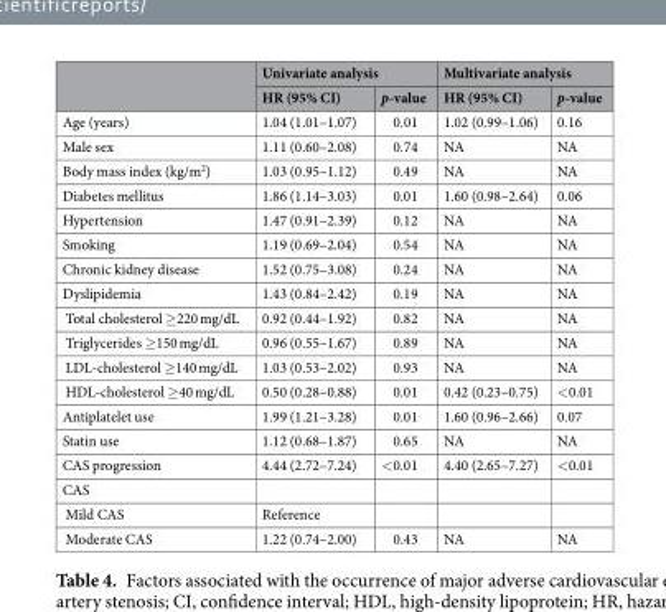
<table><thead><tr><td rowspan="2"></td><td colspan="2">Univariate analysis</td><td colspan="2">Multivariate analysis</td></tr><tr><td>HR (95% CI)</td><td>p-value</td><td>HR (95% CI)</td><td>p-value</td></tr></thead><tbody><tr><td>Age (years)</td><td>1.04 (1.01–1.07)</td><td>0.01</td><td>1.02 (0.99–1.06)</td><td>0.16</td></tr><tr><td>Male sex</td><td>1.11 (0.60–2.08)</td><td>0.74</td><td>NA</td><td>NA</td></tr><tr><td>Body mass index (kg/m<sup>2</sup>)</td><td>1.03 (0.95–1.12)</td><td>0.49</td><td>NA</td><td>NA</td></tr><tr><td>Diabetes mellitus</td><td>1.86 (1.14–3.03)</td><td>0.01</td><td>1.60 (0.98–2.64)</td><td>0.06</td></tr><tr><td>Hypertension</td><td>1.47 (0.91–2.39)</td><td>0.12</td><td>NA</td><td>NA</td></tr><tr><td>Smoking</td><td>1.19 (0.69–2.04)</td><td>0.54</td><td>NA</td><td>NA</td></tr><tr><td>Chronic kidney disease</td><td>1.52 (0.75–3.08)</td><td>0.24</td><td>NA</td><td>NA</td></tr><tr><td>Dyslipidemia</td><td>1.43 (0.84–2.42)</td><td>0.19</td><td>NA</td><td>NA</td></tr><tr><td>Total cholesterol ≥220 mg/dL</td><td>0.92 (0.44–1.92)</td><td>0.82</td><td>NA</td><td>NA</td></tr><tr><td>Triglycerides ≥150 mg/dL</td><td>0.96 (0.55–1.67)</td><td>0.89</td><td>NA</td><td>NA</td></tr><tr><td>LDL-cholesterol ≥140 mg/dL</td><td>1.03 (0.53–2.02)</td><td>0.93</td><td>NA</td><td>NA</td></tr><tr><td>HDL-cholesterol ≥40 mg/dL</td><td>0.50 (0.28–0.88)</td><td>0.01</td><td>0.42 (0.23–0.75)</td><td>&lt;0.01</td></tr><tr><td>Antiplatelet use</td><td>1.99 (1.21–3.28)</td><td>0.01</td><td>1.60 (0.96–2.66)</td><td>0.07</td></tr><tr><td>Statin use</td><td>1.12 (0.68–1.87)</td><td>0.65</td><td>NA</td><td>NA</td></tr><tr><td>CAS progression</td><td>4.44 (2.72–7.24)</td><td>&lt;0.01</td><td>4.40 (2.65–7.27)</td><td>&lt;0.01</td></tr><tr><td colspan="5">CAS</td></tr><tr><td>Mild CAS</td><td>Reference</td><td></td><td></td><td></td></tr><tr><td>Moderate CAS</td><td>1.22 (0.74–2.00)</td><td>0.43</td><td>NA</td><td>NA</td></tr></tbody></table>